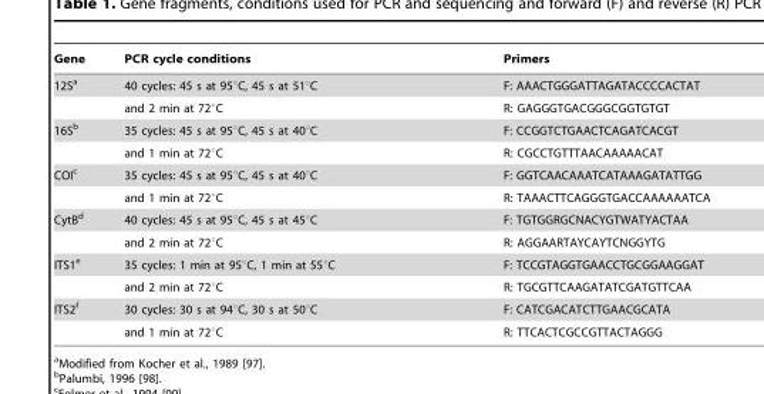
<table><thead><tr><td>Gene</td><td>PCR cycle conditions</td><td>Primers</td></tr></thead><tbody><tr><td rowspan="2">12S<sup>a</sup></td><td>40 cycles: 45 s at 95°C, 45 s at 51°C</td><td>F: AAACTGGGATTAGATACCCCACTAT</td></tr><tr><td>and 2 min at 72°C</td><td>R: GAGGGTGACGGGCGGTGTGT</td></tr><tr><td rowspan="2">16S<sup>b</sup></td><td>35 cycles: 45 s at 95°C, 45 s at 40°C</td><td>F: CCGGTCTGAACTCAGATCACGT</td></tr><tr><td>and 1 min at 72°C</td><td>R: CGCCTGTTTAACAAAAACAT</td></tr><tr><td rowspan="2">COI<sup>c</sup></td><td>35 cycles: 45 s at 95°C, 45 s at 40°C</td><td>F: GGTCAACAAATCATAAAGATATTGG</td></tr><tr><td>and 1 min at 72°C</td><td>R: TAAACTTCAGGGTGACCAAAAAATCA</td></tr><tr><td rowspan="2">CytB<sup>d</sup></td><td>40 cycles: 45 s at 95°C, 45 s at 45°C</td><td>F: TGTGGRGCNACYGTWATYACTAA</td></tr><tr><td>and 2 min at 72°C</td><td>R: AGGAARTAYCAYTCNGGYTG</td></tr><tr><td rowspan="2">ITS1<sup>e</sup></td><td>35 cycles: 1 min at 95°C, 1 min at 55°C</td><td>F: TCCGTAGGTGAACCTGCGGAAGGAT</td></tr><tr><td>and 2 min at 72°C</td><td>R: TGCGTTCAAGATATCGATGTTCAA</td></tr><tr><td rowspan="2">ITS2<sup>f</sup></td><td>30 cycles: 30 s at 94°C, 30 s at 50°C</td><td>F: CATCGACATCTTGAACGCATA</td></tr><tr><td>and 1 min at 72°C</td><td>R: TTCACTCGCCGTTACTAGGG</td></tr></tbody></table>